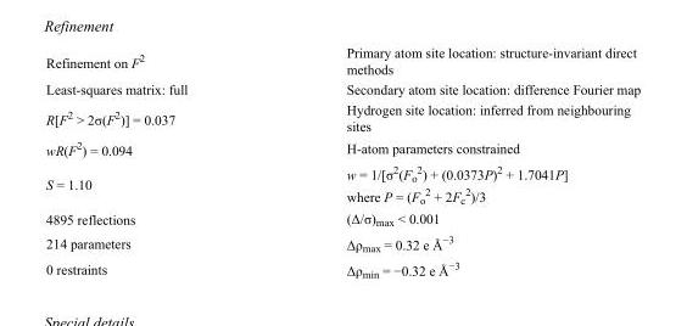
<table><tbody><tr><td>Refinement on F<sup>2</sup></td><td>Primary atom site location: structure-invariant direct methods</td></tr><tr><td>Least-squares matrix: full</td><td>Secondary atom site location: difference Fourier map</td></tr><tr><td>R[F<sup>2</sup> &gt; 2σ(F<sup>2</sup>)] = 0.037</td><td>Hydrogen site location: inferred from neighbouring sites</td></tr><tr><td>wR(F<sup>2</sup>) = 0.094</td><td>H-atom parameters constrained</td></tr><tr><td>S = 1.10</td><td>w = 1/[σ<sup>2</sup>(F<sub>o</sub> <sup>2</sup>) + (0.0373P)<sup>2</sup> + 1.7041P] where P = (F<sub>o</sub> <sup>2</sup> + 2F<sub>c</sub> <sup>2</sup>)/3</td></tr><tr><td>4895 reflections</td><td>(Δ/σ)<sub>max</sub> &lt; 0.001</td></tr><tr><td>214 parameters</td><td>Δρ<sub>max</sub> = 0.32 e Å<sup>−3</sup></td></tr><tr><td>0 restraints</td><td>Δρ<sub>min</sub> = −0.32 e Å<sup>−3</sup></td></tr></tbody></table>